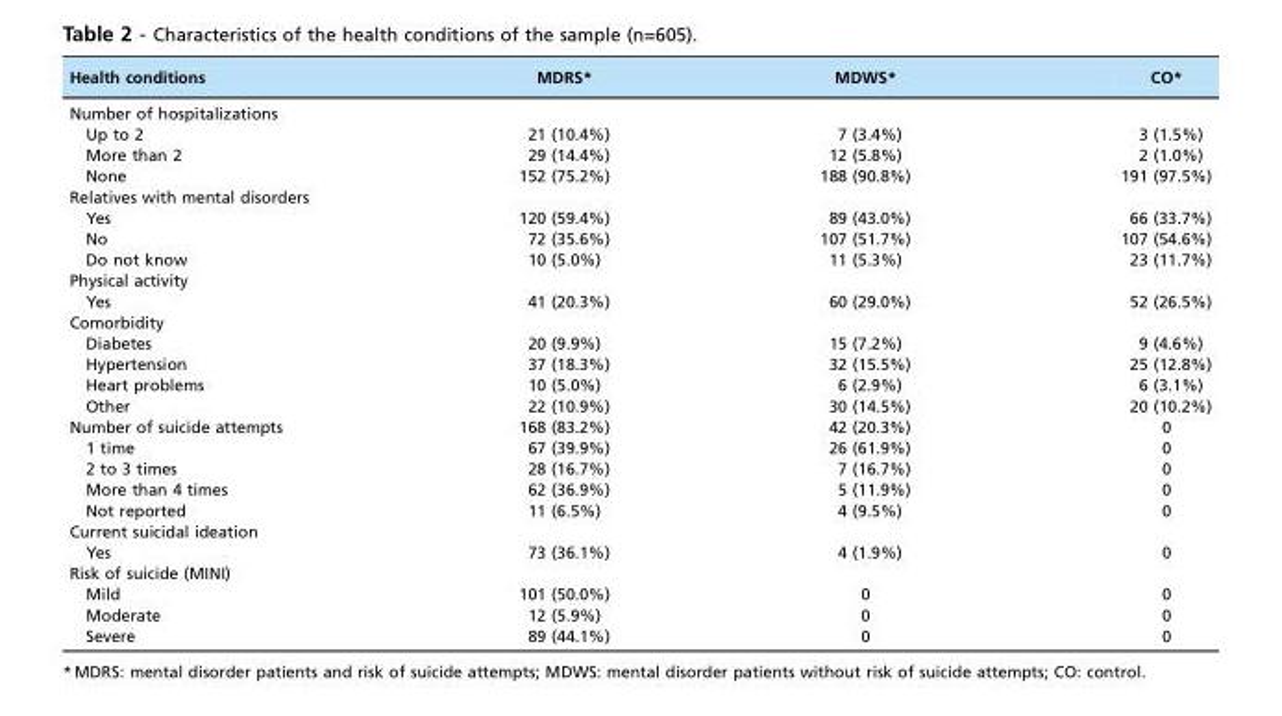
<table><thead><tr><td>Health conditions</td><td>MDRS*</td><td>MDWS*</td><td>CO*</td></tr></thead><tbody><tr><td colspan="4">Number of hospitalizations</td></tr><tr><td>Up to 2</td><td>21 (10.4%)</td><td>7 (3.4%)</td><td>3 (1.5%)</td></tr><tr><td>More than 2</td><td>29 (14.4%)</td><td>12 (5.8%)</td><td>2 (1.0%)</td></tr><tr><td>None</td><td>152 (75.2%)</td><td>188 (90.8%)</td><td>191 (97.5%)</td></tr><tr><td colspan="4">Relatives with mental disorders</td></tr><tr><td>Yes</td><td>120 (59.4%)</td><td>89 (43.0%)</td><td>66 (33.7%)</td></tr><tr><td>No</td><td>72 (35.6%)</td><td>107 (51.7%)</td><td>107 (54.6%)</td></tr><tr><td>Do not know</td><td>10 (5.0%)</td><td>11 (5.3%)</td><td>23 (11.7%)</td></tr><tr><td colspan="4">Physical activity</td></tr><tr><td>Yes</td><td>41 (20.3%)</td><td>60 (29.0%)</td><td>52 (26.5%)</td></tr><tr><td colspan="4">Comorbidity</td></tr><tr><td>Diabetes</td><td>20 (9.9%)</td><td>15 (7.2%)</td><td>9 (4.6%)</td></tr><tr><td>Hypertension</td><td>37 (18.3%)</td><td>32 (15.5%)</td><td>25 (12.8%)</td></tr><tr><td>Heart problems</td><td>10 (5.0%)</td><td>6 (2.9%)</td><td>6 (3.1%)</td></tr><tr><td>Other</td><td>22 (10.9%)</td><td>30 (14.5%)</td><td>20 (10.2%)</td></tr><tr><td>Number of suicide attempts</td><td>168 (83.2%)</td><td>42 (20.3%)</td><td>0</td></tr><tr><td>1 time</td><td>67 (39.9%)</td><td>26 (61.9%)</td><td>0</td></tr><tr><td>2 to 3 times</td><td>28 (16.7%)</td><td>7 (16.7%)</td><td>0</td></tr><tr><td>More than 4 times</td><td>62 (36.9%)</td><td>5 (11.9%)</td><td>0</td></tr><tr><td>Not reported</td><td>11 (6.5%)</td><td>4 (9.5%)</td><td>0</td></tr><tr><td colspan="4">Current suicidal ideation</td></tr><tr><td>Yes</td><td>73 (36.1%)</td><td>4 (1.9%)</td><td>0</td></tr><tr><td colspan="4">Risk of suicide (MINI)</td></tr><tr><td>Mild</td><td>101 (50.0%)</td><td>0</td><td>0</td></tr><tr><td>Moderate</td><td>12 (5.9%)</td><td>0</td><td>0</td></tr><tr><td>Severe</td><td>89 (44.1%)</td><td>0</td><td>0</td></tr></tbody></table>